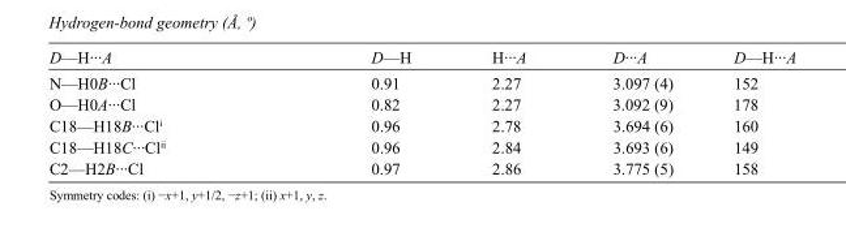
<table><tbody><tr><td>D—H···A</td><td>D—H</td><td>H···A</td><td>D···A</td><td>D—H···A</td></tr><tr><td>N—H0B···Cl</td><td>0.91</td><td>2.27</td><td>3.097 (4)</td><td>152</td></tr><tr><td>O—H0A···Cl</td><td>0.82</td><td>2.27</td><td>3.092 (9)</td><td>178</td></tr><tr><td>C18—H18B···Cl<sup>i</sup></td><td>0.96</td><td>2.78</td><td>3.694 (6)</td><td>160</td></tr><tr><td>C18—H18C···Cl<sup>ii</sup></td><td>0.96</td><td>2.84</td><td>3.693 (6)</td><td>149</td></tr><tr><td>C2—H2B···Cl</td><td>0.97</td><td>2.86</td><td>3.775 (5)</td><td>158</td></tr></tbody></table>